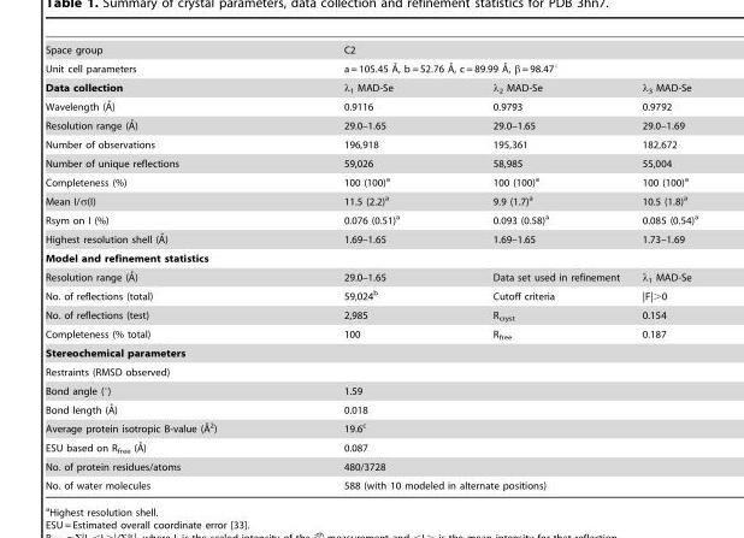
<table><tbody><tr><td>Space group</td><td colspan="3">C2</td></tr><tr><td>Unit cell parameters</td><td colspan="3">a = 105.45 A˚, b = 52.76 A˚, c = 89.99 A˚, b = 98.47u</td></tr><tr><td>Data collection</td><td>λ<sub>1</sub> MAD-Se</td><td>λ<sub>2</sub> MAD-Se</td><td>λ<sub>3</sub> MAD-Se</td></tr><tr><td>Wavelength (A˚)</td><td>0.9116</td><td>0.9793</td><td>0.9792</td></tr><tr><td>Resolution range (A˚)</td><td>29.0–1.65</td><td>29.0–1.65</td><td>29.0–1.69</td></tr><tr><td>Number of observations</td><td>196,918</td><td>195,361</td><td>182,672</td></tr><tr><td>Number of unique reflections</td><td>59,026</td><td>58,985</td><td>55,004</td></tr><tr><td>Completeness (%)</td><td>100 (100)<sup>a</sup></td><td>100 (100)<sup>a</sup></td><td>100 (100)<sup>a</sup></td></tr><tr><td>Mean I/σ(I)</td><td>11.5 (2.2)<sup>a</sup></td><td>9.9 (1.7)<sup>a</sup></td><td>10.5 (1.8)<sup>a</sup></td></tr><tr><td>Rsym on I (%)</td><td>0.076 (0.51)<sup>a</sup></td><td>0.093 (0.58)<sup>a</sup></td><td>0.085 (0.54)<sup>a</sup></td></tr><tr><td>Highest resolution shell (A˚)</td><td>1.69–1.65</td><td>1.69–1.65</td><td>1.73–1.69</td></tr><tr><td colspan="4">Model and refinement statistics</td></tr><tr><td>Resolution range (A˚)</td><td>29.0–1.65</td><td>Data set used in refinement</td><td>λ<sub>1</sub> MAD-Se</td></tr><tr><td>No. of reflections (total)</td><td>59,024<sup>b</sup></td><td>Cutoff criteria</td><td>|F|&gt;0</td></tr><tr><td>No. of reflections (test)</td><td>2,985</td><td>R<sub>cryst</sub></td><td>0.154</td></tr><tr><td>Completeness (% total)</td><td>100</td><td>R<sub>free</sub></td><td>0.187</td></tr><tr><td colspan="4">Stereochemical parameters</td></tr><tr><td colspan="4">Restraints (RMSD observed)</td></tr><tr><td>Bond angle (°)</td><td colspan="3">1.59</td></tr><tr><td>Bond length (A˚)</td><td colspan="3">0.018</td></tr><tr><td>Average protein isotropic B-value (A˚2)</td><td colspan="3">19.6<sup>c</sup></td></tr><tr><td>ESU based on Rfree (A˚)</td><td colspan="3">0.087</td></tr><tr><td>No. of protein residues/atoms</td><td colspan="3">480/3728</td></tr><tr><td>No. of water molecules</td><td colspan="3">588 (with 10 modeled in alternate positions)</td></tr></tbody></table>